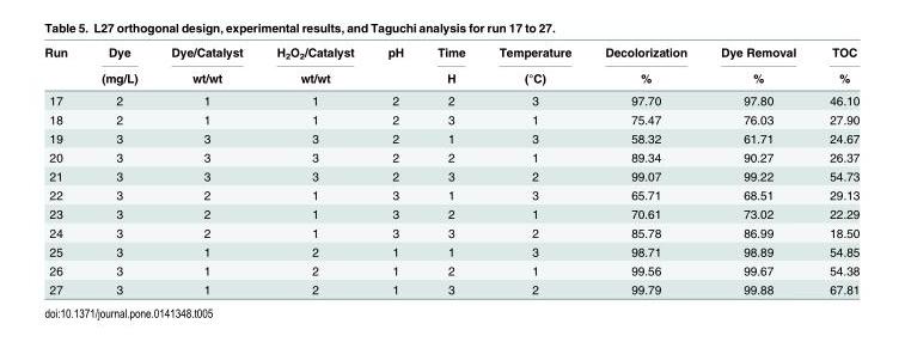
<table><thead><tr><td rowspan="2">Run</td><td rowspan="2">Dye (mg/L)</td><td rowspan="2">Dye/Catalyst wt/wt</td><td rowspan="2">H<sub>2</sub>O<sub>2</sub>/Catalyst wt/wt</td><td rowspan="2">pH</td><td rowspan="2">Time H</td><td rowspan="2">Temperature (°C)</td><td rowspan="2">Decolorization %</td><td rowspan="2">Dye Removal %</td><td rowspan="2">TOC %</td></tr><tr></tr></thead><tbody><tr><td>17</td><td>2</td><td>1</td><td>1</td><td>2</td><td>2</td><td>3</td><td>97.70</td><td>97.80</td><td>46.10</td></tr><tr><td>18</td><td>2</td><td>1</td><td>1</td><td>2</td><td>3</td><td>1</td><td>75.47</td><td>76.03</td><td>27.90</td></tr><tr><td>19</td><td>3</td><td>3</td><td>3</td><td>2</td><td>1</td><td>3</td><td>58.32</td><td>61.71</td><td>24.67</td></tr><tr><td>20</td><td>3</td><td>3</td><td>3</td><td>2</td><td>2</td><td>1</td><td>89.34</td><td>90.27</td><td>26.37</td></tr><tr><td>21</td><td>3</td><td>3</td><td>3</td><td>2</td><td>3</td><td>2</td><td>99.07</td><td>99.22</td><td>54.73</td></tr><tr><td>22</td><td>3</td><td>2</td><td>1</td><td>3</td><td>1</td><td>3</td><td>65.71</td><td>68.51</td><td>29.13</td></tr><tr><td>23</td><td>3</td><td>2</td><td>1</td><td>3</td><td>2</td><td>1</td><td>70.61</td><td>73.02</td><td>22.29</td></tr><tr><td>24</td><td>3</td><td>2</td><td>1</td><td>3</td><td>3</td><td>2</td><td>85.78</td><td>86.99</td><td>18.50</td></tr><tr><td>25</td><td>3</td><td>1</td><td>2</td><td>1</td><td>1</td><td>3</td><td>98.71</td><td>98.89</td><td>54.85</td></tr><tr><td>26</td><td>3</td><td>1</td><td>2</td><td>1</td><td>2</td><td>1</td><td>99.56</td><td>99.67</td><td>54.38</td></tr><tr><td>27</td><td>3</td><td>1</td><td>2</td><td>1</td><td>3</td><td>2</td><td>99.79</td><td>99.88</td><td>67.81</td></tr></tbody></table>